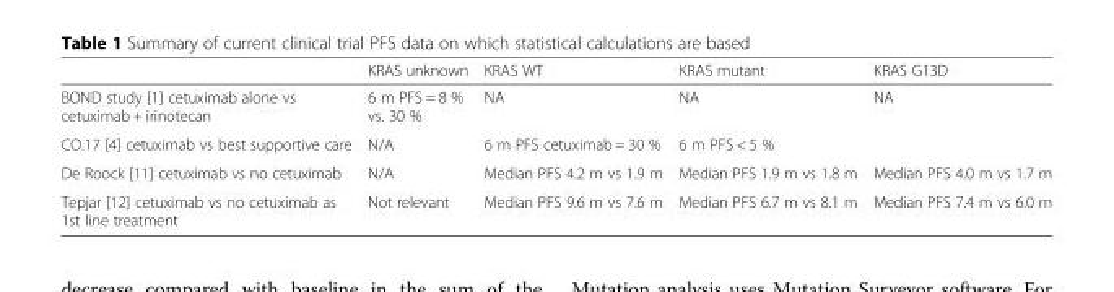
<table><thead><tr><td></td><td>KRAS unknown</td><td>KRAS WT</td><td>KRAS mutant</td><td>KRAS G13D</td></tr></thead><tbody><tr><td>BOND study [1] cetuximab alone vs cetuximab + irinotecan</td><td>6 m PFS = 8 % vs. 30 %</td><td>NA</td><td>NA</td><td>NA</td></tr><tr><td>CO.17 [4] cetuximab vs best supportive care</td><td>N/A</td><td>6 m PFS cetuximab = 30 %</td><td>6 m PFS &lt; 5 %</td><td></td></tr><tr><td>De Roock [11] cetuximab vs no cetuximab</td><td>N/A</td><td>Median PFS 4.2 m vs 1.9 m</td><td>Median PFS 1.9 m vs 1.8 m</td><td>Median PFS 4.0 m vs 1.7 m</td></tr><tr><td>Tepjar [12] cetuximab vs no cetuximab as 1st line treatment</td><td>Not relevant</td><td>Median PFS 9.6 m vs 7.6 m</td><td>Median PFS 6.7 m vs 8.1 m</td><td>Median PFS 7.4 m vs 6.0 m</td></tr></tbody></table>